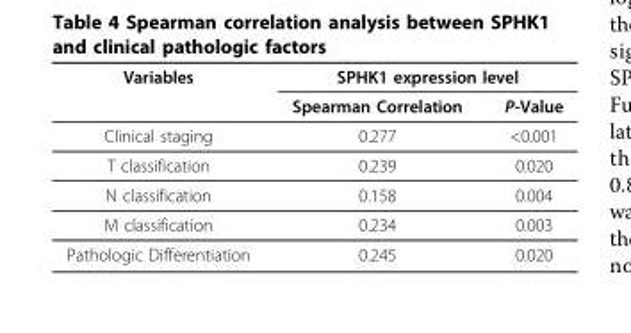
<table><thead><tr><td rowspan="2">Variables</td><td colspan="2">SPHK1 expression level</td></tr><tr><td>Spearman Correlation</td><td>P-Value</td></tr></thead><tbody><tr><td>Clinical staging</td><td>0.277</td><td>&lt;0.001</td></tr><tr><td>T classification</td><td>0.239</td><td>0.020</td></tr><tr><td>N classification</td><td>0.158</td><td>0.004</td></tr><tr><td>M classification</td><td>0.234</td><td>0.003</td></tr><tr><td>Pathologic Differentiation</td><td>0.245</td><td>0.020</td></tr></tbody></table>